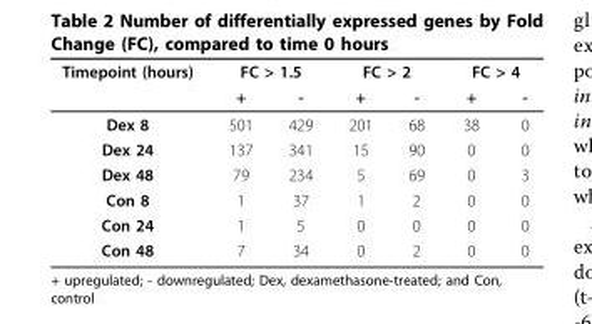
<table><thead><tr><td rowspan="2">Timepoint (hours)</td><td colspan="2">FC &gt; 1.5</td><td colspan="2">FC &gt; 2</td><td colspan="2">FC &gt; 4</td></tr><tr><td>+</td><td>-</td><td>+</td><td>-</td><td>+</td><td>-</td></tr></thead><tbody><tr><td>Dex 8</td><td>501</td><td>429</td><td>201</td><td>68</td><td>38</td><td>0</td></tr><tr><td>Dex 24</td><td>137</td><td>341</td><td>15</td><td>90</td><td>0</td><td>0</td></tr><tr><td>Dex 48</td><td>79</td><td>234</td><td>5</td><td>69</td><td>0</td><td>3</td></tr><tr><td>Con 8</td><td>1</td><td>37</td><td>1</td><td>2</td><td>0</td><td>0</td></tr><tr><td>Con 24</td><td>1</td><td>5</td><td>0</td><td>0</td><td>0</td><td>0</td></tr><tr><td>Con 48</td><td>7</td><td>34</td><td>0</td><td>2</td><td>0</td><td>0</td></tr></tbody></table>